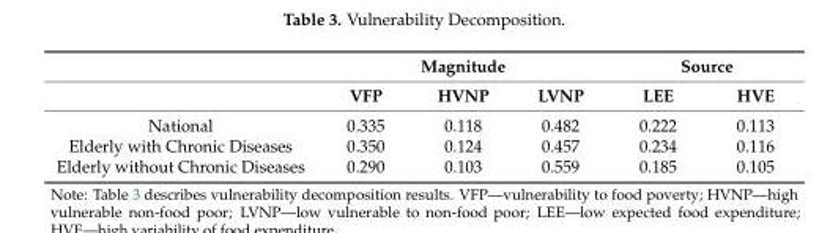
<table><thead><tr><td rowspan="2"></td><td colspan="3">Magnitude</td><td colspan="2">Source</td></tr><tr><td>VFP</td><td>HVNP</td><td>LVNP</td><td>LEE</td><td>HVE</td></tr></thead><tbody><tr><td>National</td><td>0.335</td><td>0.118</td><td>0.482</td><td>0.222</td><td>0.113</td></tr><tr><td>Elderly with Chronic Diseases</td><td>0.350</td><td>0.124</td><td>0.457</td><td>0.234</td><td>0.116</td></tr><tr><td>Elderly without Chronic Diseases</td><td>0.290</td><td>0.103</td><td>0.559</td><td>0.185</td><td>0.105</td></tr></tbody></table>